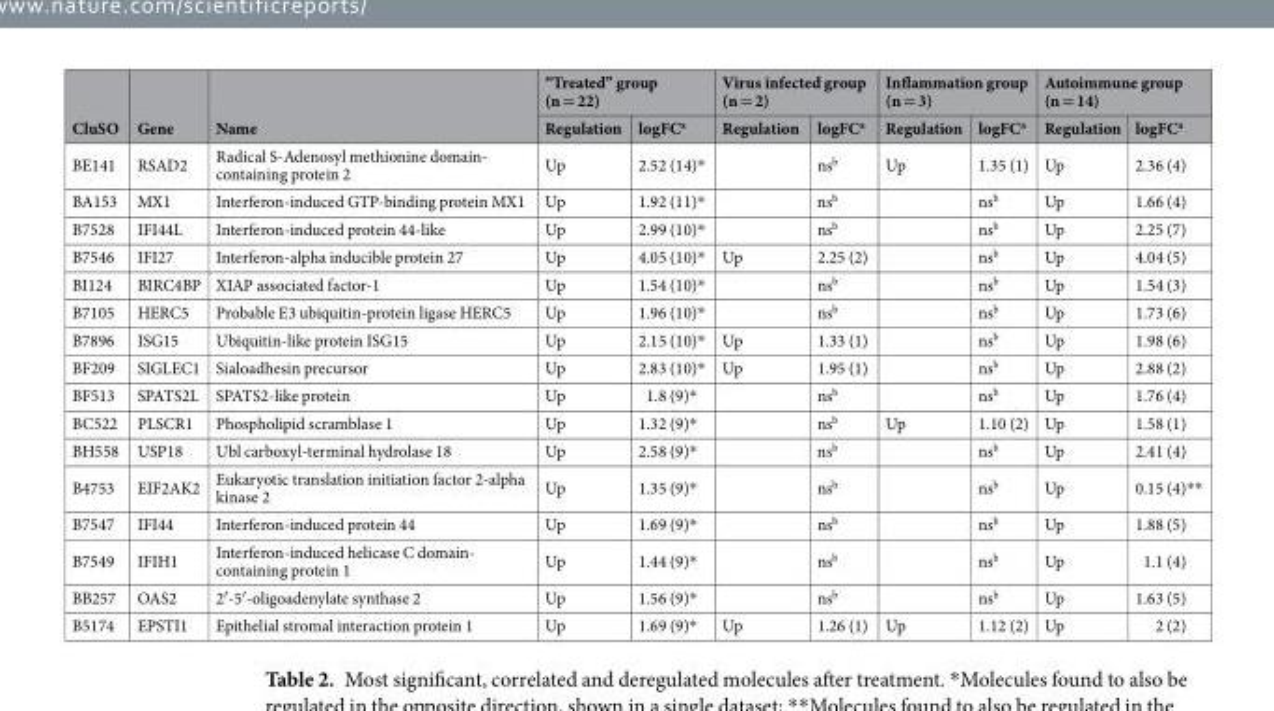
<table><thead><tr><td rowspan="2">CluSO</td><td rowspan="2">Gene</td><td rowspan="2">Name</td><td colspan="2">“Treated” group (n = 22)</td><td colspan="2">Virus infected group (n = 2)</td><td colspan="2">Inflammation group (n = 3)</td><td colspan="2">Autoimmune group (n = 14)</td></tr><tr><td>Regulation</td><td>logFC<sup>a</sup></td><td>Regulation</td><td>logFC<sup>a</sup></td><td>Regulation</td><td>logFC<sup>a</sup></td><td>Regulation</td><td>logFC<sup>a</sup></td></tr></thead><tbody><tr><td>BE141</td><td>RSAD2</td><td>Radical S-Adenosyl methionine domain- containing protein 2</td><td>Up</td><td>2.52 (14)*</td><td></td><td>ns<sup>b</sup></td><td>Up</td><td>1.35 (1)</td><td>Up</td><td>2.36 (4)</td></tr><tr><td>BA153</td><td>MX1</td><td>Interferon-induced GTP-binding protein MX1</td><td>Up</td><td>1.92 (11)*</td><td></td><td>ns<sup>b</sup></td><td></td><td>ns<sup>b</sup></td><td>Up</td><td>1.66 (4)</td></tr><tr><td>B7528</td><td>IFI44L</td><td>Interferon-induced protein 44-like</td><td>Up</td><td>2.99 (10)*</td><td></td><td>ns<sup>b</sup></td><td></td><td>ns<sup>b</sup></td><td>Up</td><td>2.25 (7)</td></tr><tr><td>B7546</td><td>IFI27</td><td>Interferon-alpha inducible protein 27</td><td>Up</td><td>4.05 (10)*</td><td>Up</td><td>2.25 (2)</td><td></td><td>ns<sup>b</sup></td><td>Up</td><td>4.04 (5)</td></tr><tr><td>BI124</td><td>BIRC4BP</td><td>XIAP associated factor-1</td><td>Up</td><td>1.54 (10)*</td><td></td><td>ns<sup>b</sup></td><td></td><td>ns<sup>b</sup></td><td>Up</td><td>1.54 (3)</td></tr><tr><td>B7105</td><td>HERC5</td><td>Probable E3 ubiquitin-protein ligase HERC5</td><td>Up</td><td>1.96 (10)*</td><td></td><td>ns<sup>b</sup></td><td></td><td>ns<sup>b</sup></td><td>Up</td><td>1.73 (6)</td></tr><tr><td>B7896</td><td>ISG15</td><td>Ubiquitin-like protein ISG15</td><td>Up</td><td>2.15 (10)*</td><td>Up</td><td>1.33 (1)</td><td></td><td>ns<sup>b</sup></td><td>Up</td><td>1.98 (6)</td></tr><tr><td>BF209</td><td>SIGLEC1</td><td>Sialoadhesin precursor</td><td>Up</td><td>2.83 (10)*</td><td>Up</td><td>1.95 (1)</td><td></td><td>ns<sup>b</sup></td><td>Up</td><td>2.88 (2)</td></tr><tr><td>BF513</td><td>SPATS2L</td><td>SPATS2-like protein</td><td>Up</td><td>1.8 (9)*</td><td></td><td>ns<sup>b</sup></td><td></td><td>ns<sup>b</sup></td><td>Up</td><td>1.76 (4)</td></tr><tr><td>BC522</td><td>PLSCR1</td><td>Phospholipid scramblase 1</td><td>Up</td><td>1.32 (9)*</td><td></td><td>ns<sup>b</sup></td><td>Up</td><td>1.10 (2)</td><td>Up</td><td>1.58 (1)</td></tr><tr><td>BH558</td><td>USP18</td><td>Ubl carboxyl-terminal hydrolase 18</td><td>Up</td><td>2.58 (9)*</td><td></td><td>ns<sup>b</sup></td><td></td><td>ns<sup>b</sup></td><td>Up</td><td>2.41 (4)</td></tr><tr><td>B4753</td><td>EIF2AK2</td><td>Eukaryotic translation initiation factor 2-alpha kinase 2</td><td>Up</td><td>1.35 (9)*</td><td></td><td>ns<sup>b</sup></td><td></td><td>ns<sup>b</sup></td><td>Up</td><td>0.15 (4)**</td></tr><tr><td>B7547</td><td>IFI44</td><td>Interferon-induced protein 44</td><td>Up</td><td>1.69 (9)*</td><td></td><td>ns<sup>b</sup></td><td></td><td>ns<sup>b</sup></td><td>Up</td><td>1.88 (5)</td></tr><tr><td>B7549</td><td>IFIH1</td><td>Interferon-induced helicase C domain- containing protein 1</td><td>Up</td><td>1.44 (9)*</td><td></td><td>ns<sup>b</sup></td><td></td><td>ns<sup>b</sup></td><td>Up</td><td>1.1 (4)</td></tr><tr><td>BB257</td><td>OAS2</td><td>2′-5′-oligoadenylate synthase 2</td><td>Up</td><td>1.56 (9)*</td><td></td><td>ns<sup>b</sup></td><td></td><td>ns<sup>b</sup></td><td>Up</td><td>1.63 (5)</td></tr><tr><td>B5174</td><td>EPSTI1</td><td>Epithelial stromal interaction protein 1</td><td>Up</td><td>1.69 (9)*</td><td>Up</td><td>1.26 (1)</td><td>Up</td><td>1.12 (2)</td><td>Up</td><td>2 (2)</td></tr></tbody></table>